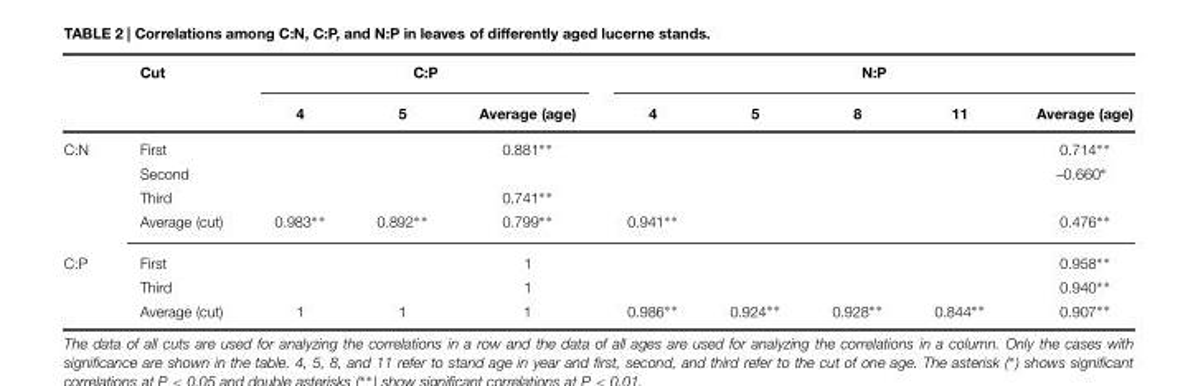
<table><thead><tr><td rowspan="2"></td><td rowspan="2">Cut</td><td colspan="3">C:P</td><td colspan="5">N:P</td></tr><tr><td>4</td><td>5</td><td>Average (age)</td><td>4</td><td>5</td><td>8</td><td>11</td><td>Average (age)</td></tr></thead><tbody><tr><td rowspan="4">C:N</td><td>First</td><td></td><td></td><td>0.881∗∗</td><td></td><td></td><td></td><td></td><td>0.714∗∗</td></tr><tr><td>Second</td><td></td><td></td><td></td><td></td><td></td><td></td><td></td><td>–0.660∗</td></tr><tr><td>Third</td><td></td><td></td><td>0.741∗∗</td><td></td><td></td><td></td><td></td><td></td></tr><tr><td>Average (cut)</td><td>0.983∗∗</td><td>0.892∗∗</td><td>0.799∗∗</td><td>0.941∗ ∗</td><td></td><td></td><td></td><td>0.476∗∗</td></tr><tr><td rowspan="3">C:P</td><td>First</td><td></td><td></td><td>1</td><td></td><td></td><td></td><td></td><td>0.958∗∗</td></tr><tr><td>Third</td><td></td><td></td><td>1</td><td></td><td></td><td></td><td></td><td>0.940∗∗</td></tr><tr><td>Average (cut)</td><td>1</td><td>1</td><td>1</td><td>0.986∗ ∗</td><td>0.924∗∗</td><td>0.928∗∗</td><td>0.844∗∗</td><td>0.907∗∗</td></tr></tbody></table>